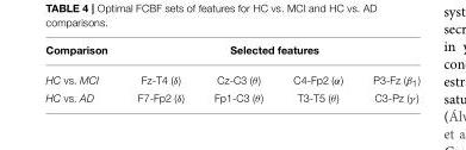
<table><thead><tr><td rowspan="2">Comparison HC vs. MCI</td><td colspan="4">Selected features</td></tr><tr><td>Fz-T4 (δ)</td><td>Cz-C3 (θ)</td><td>C4-Fp2 (α)</td><td>P3-Fz (β<sub>1</sub>)</td></tr></thead><tbody><tr><td>HC vs. AD</td><td>F7-Fp2 (δ)</td><td>Fp1-C3 (θ)</td><td>T3-T5 (θ)</td><td>C3-Pz (γ )</td></tr></tbody></table>